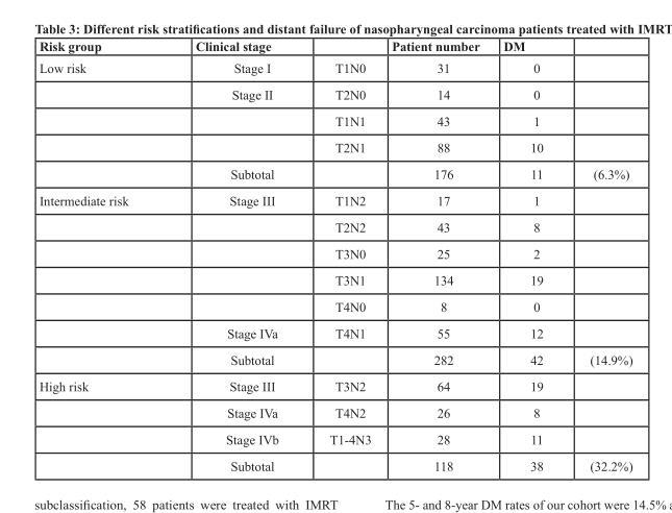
<table><thead><tr><td>Risk group</td><td>Clinical stage</td><td></td><td>Patient number</td><td>DM</td><td></td></tr></thead><tbody><tr><td rowspan="5">Low risk</td><td>Stage I</td><td>T1N0</td><td>31</td><td>0</td><td></td></tr><tr><td>Stage II</td><td>T2N0</td><td>14</td><td>0</td><td></td></tr><tr><td></td><td>T1N1</td><td>43</td><td>1</td><td></td></tr><tr><td></td><td>T2N1</td><td>88</td><td>10</td><td></td></tr><tr><td>Subtotal</td><td></td><td>176</td><td>11</td><td>(6.3%)</td></tr><tr><td rowspan="7">Intermediate risk</td><td>Stage III</td><td>T1N2</td><td>17</td><td>1</td><td></td></tr><tr><td></td><td>T2N2</td><td>43</td><td>8</td><td></td></tr><tr><td></td><td>T3N0</td><td>25</td><td>2</td><td></td></tr><tr><td></td><td>T3N1</td><td>134</td><td>19</td><td></td></tr><tr><td></td><td>T4N0</td><td>8</td><td>0</td><td></td></tr><tr><td>Stage IVa</td><td>T4N1</td><td>55</td><td>12</td><td></td></tr><tr><td>Subtotal</td><td></td><td>282</td><td>42</td><td>(14.9%)</td></tr><tr><td rowspan="4">High risk</td><td>Stage III</td><td>T3N2</td><td>64</td><td>19</td><td></td></tr><tr><td>Stage IVa</td><td>T4N2</td><td>26</td><td>8</td><td></td></tr><tr><td>Stage IVb</td><td>T1-4N3</td><td>28</td><td>11</td><td></td></tr><tr><td>Subtotal</td><td></td><td>118</td><td>38</td><td>(32.2%)</td></tr></tbody></table>